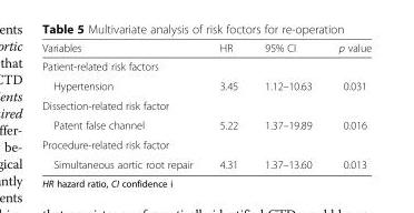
<table><thead><tr><td>Variables</td><td>HR</td><td>95% CI</td><td>p value</td></tr></thead><tbody><tr><td colspan="4">Patient-related risk factors</td></tr><tr><td>Hypertension</td><td>3.45</td><td>1.12–10.63</td><td>0.031</td></tr><tr><td colspan="4">Dissection-related risk factor</td></tr><tr><td>Patent false channel</td><td>5.22</td><td>1.37–19.89</td><td>0.016</td></tr><tr><td colspan="4">Procedure-related risk factor</td></tr><tr><td>Simultaneous aortic root repair</td><td>4.31</td><td>1.37–13.60</td><td>0.013</td></tr></tbody></table>